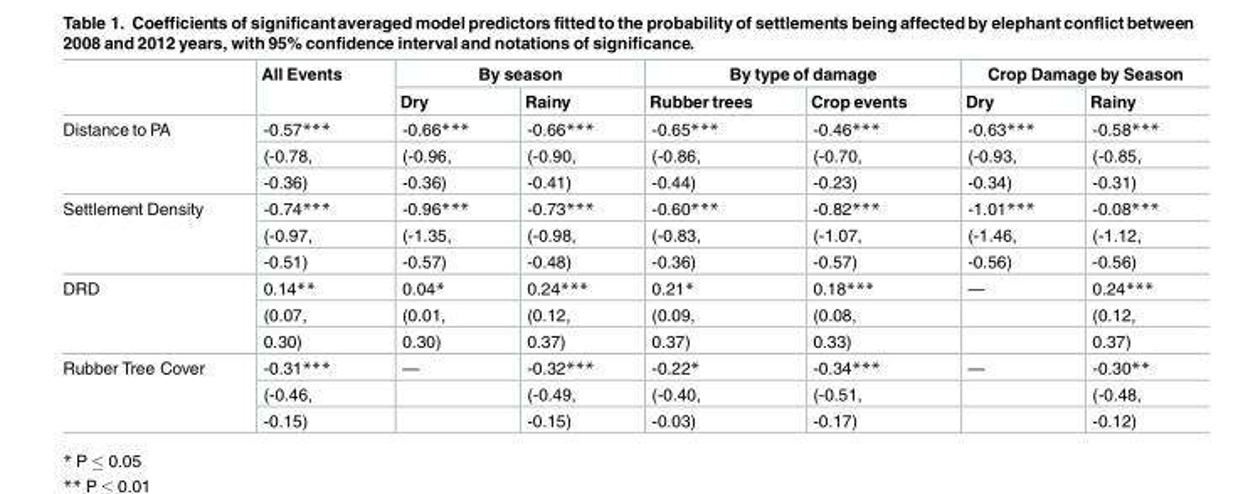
<table><thead><tr><td rowspan="2"></td><td rowspan="2">All Events</td><td colspan="2">By season</td><td colspan="2">By type of damage</td><td colspan="2">Crop Damage by Season</td></tr><tr><td>Dry</td><td>Rainy</td><td>Rubber trees</td><td>Crop events</td><td>Dry</td><td>Rainy</td></tr></thead><tbody><tr><td rowspan="3">Distance to PA</td><td>-0.57***</td><td>-0.66***</td><td>-0.66***</td><td>-0.65***</td><td>-0.46***</td><td>-0.63***</td><td>-0.58***</td></tr><tr><td>(-0.78,</td><td>(-0.96,</td><td>(-0.90,</td><td>(-0.86,</td><td>(-0.70,</td><td>(-0.93,</td><td>(-0.85,</td></tr><tr><td>-0.36)</td><td>-0.36)</td><td>-0.41)</td><td>-0.44)</td><td>-0.23)</td><td>-0.34)</td><td>-0.31)</td></tr><tr><td rowspan="3">Settlement Density</td><td>-0.74***</td><td>-0.96***</td><td>-0.73***</td><td>-0.60***</td><td>-0.82***</td><td>-1.01***</td><td>-0.08***</td></tr><tr><td>(-0.97,</td><td>(-1.35,</td><td>(-0.98,</td><td>(-0.83,</td><td>(-1.07,</td><td>(-1.46,</td><td>(-1.12,</td></tr><tr><td>-0.51)</td><td>-0.57)</td><td>-0.48)</td><td>-0.36)</td><td>-0.57)</td><td>-0.56)</td><td>-0.56)</td></tr><tr><td rowspan="3">DRD</td><td>0.14**</td><td>0.04*</td><td>0.24***</td><td>0.21*</td><td>0.18***</td><td>—</td><td>0.24***</td></tr><tr><td>(0.07,</td><td>(0.01,</td><td>(0.12,</td><td>(0.09,</td><td>(0.08,</td><td></td><td>(0.12,</td></tr><tr><td>0.30)</td><td>0.30)</td><td>0.37)</td><td>0.37)</td><td>0.33)</td><td></td><td>0.37)</td></tr><tr><td rowspan="3">Rubber Tree Cover</td><td>-0.31***</td><td>—</td><td>-0.32***</td><td>-0.22*</td><td>-0.34***</td><td>—</td><td>-0.30**</td></tr><tr><td>(-0.46,</td><td></td><td>(-0.49,</td><td>(-0.40,</td><td>(-0.51,</td><td></td><td>(-0.48,</td></tr><tr><td>-0.15)</td><td></td><td>-0.15)</td><td>-0.03)</td><td>-0.17)</td><td></td><td>-0.12)</td></tr></tbody></table>